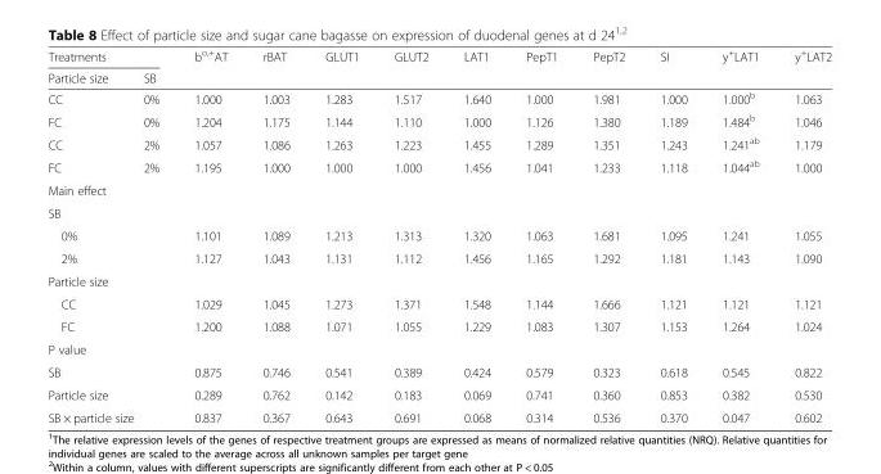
<table><thead><tr><td colspan="2">Treatments</td><td rowspan="2">b<sup>o,+</sup>AT</td><td rowspan="2">rBAT</td><td rowspan="2">GLUT1</td><td rowspan="2">GLUT2</td><td rowspan="2">LAT1</td><td rowspan="2">PepT1</td><td rowspan="2">PepT2</td><td rowspan="2">SI</td><td rowspan="2">y<sup>+</sup>LAT1</td><td rowspan="2">y<sup>+</sup>LAT2</td></tr><tr><td>Particle size</td><td>SB</td></tr></thead><tbody><tr><td>CC</td><td>0%</td><td>1.000</td><td>1.003</td><td>1.283</td><td>1.517</td><td>1.640</td><td>1.000</td><td>1.981</td><td>1.000</td><td>1.000<sup>b</sup></td><td>1.063</td></tr><tr><td>FC</td><td>0%</td><td>1.204</td><td>1.175</td><td>1.144</td><td>1.110</td><td>1.000</td><td>1.126</td><td>1.380</td><td>1.189</td><td>1.484<sup>b</sup></td><td>1.046</td></tr><tr><td>CC</td><td>2%</td><td>1.057</td><td>1.086</td><td>1.263</td><td>1.223</td><td>1.455</td><td>1.289</td><td>1.351</td><td>1.243</td><td>1.241<sup>ab</sup></td><td>1.179</td></tr><tr><td>FC</td><td>2%</td><td>1.195</td><td>1.000</td><td>1.000</td><td>1.000</td><td>1.456</td><td>1.041</td><td>1.233</td><td>1.118</td><td>1.044<sup>ab</sup></td><td>1.000</td></tr><tr><td colspan="12">Main effect</td></tr><tr><td colspan="12">SB</td></tr><tr><td colspan="2">0%</td><td>1.101</td><td>1.089</td><td>1.213</td><td>1.313</td><td>1.320</td><td>1.063</td><td>1.681</td><td>1.095</td><td>1.241</td><td>1.055</td></tr><tr><td colspan="2">2%</td><td>1.127</td><td>1.043</td><td>1.131</td><td>1.112</td><td>1.456</td><td>1.165</td><td>1.292</td><td>1.181</td><td>1.143</td><td>1.090</td></tr><tr><td colspan="12">Particle size</td></tr><tr><td colspan="2">CC</td><td>1.029</td><td>1.045</td><td>1.273</td><td>1.371</td><td>1.548</td><td>1.144</td><td>1.666</td><td>1.121</td><td>1.121</td><td>1.121</td></tr><tr><td colspan="2">FC</td><td>1.200</td><td>1.088</td><td>1.071</td><td>1.055</td><td>1.229</td><td>1.083</td><td>1.307</td><td>1.153</td><td>1.264</td><td>1.024</td></tr><tr><td colspan="12">P value</td></tr><tr><td colspan="2">SB</td><td>0.875</td><td>0.746</td><td>0.541</td><td>0.389</td><td>0.424</td><td>0.579</td><td>0.323</td><td>0.618</td><td>0.545</td><td>0.822</td></tr><tr><td colspan="2">Particle size</td><td>0.289</td><td>0.762</td><td>0.142</td><td>0.183</td><td>0.069</td><td>0.741</td><td>0.360</td><td>0.853</td><td>0.382</td><td>0.530</td></tr><tr><td colspan="2">SB × particle size</td><td>0.837</td><td>0.367</td><td>0.643</td><td>0.691</td><td>0.068</td><td>0.314</td><td>0.536</td><td>0.370</td><td>0.047</td><td>0.602</td></tr></tbody></table>